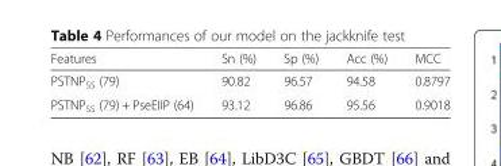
<table><thead><tr><td>Features</td><td>Sn (%)</td><td>Sp (%)</td><td>Acc (%)</td><td>MCC</td></tr></thead><tbody><tr><td>PSTNP<sub>SS</sub> (79)</td><td>90.82</td><td>96.57</td><td>94.58</td><td>0.8797</td></tr><tr><td>PSTNP<sub>SS</sub> (79) + PseEIIP (64)</td><td>93.12</td><td>96.86</td><td>95.56</td><td>0.9018</td></tr></tbody></table>